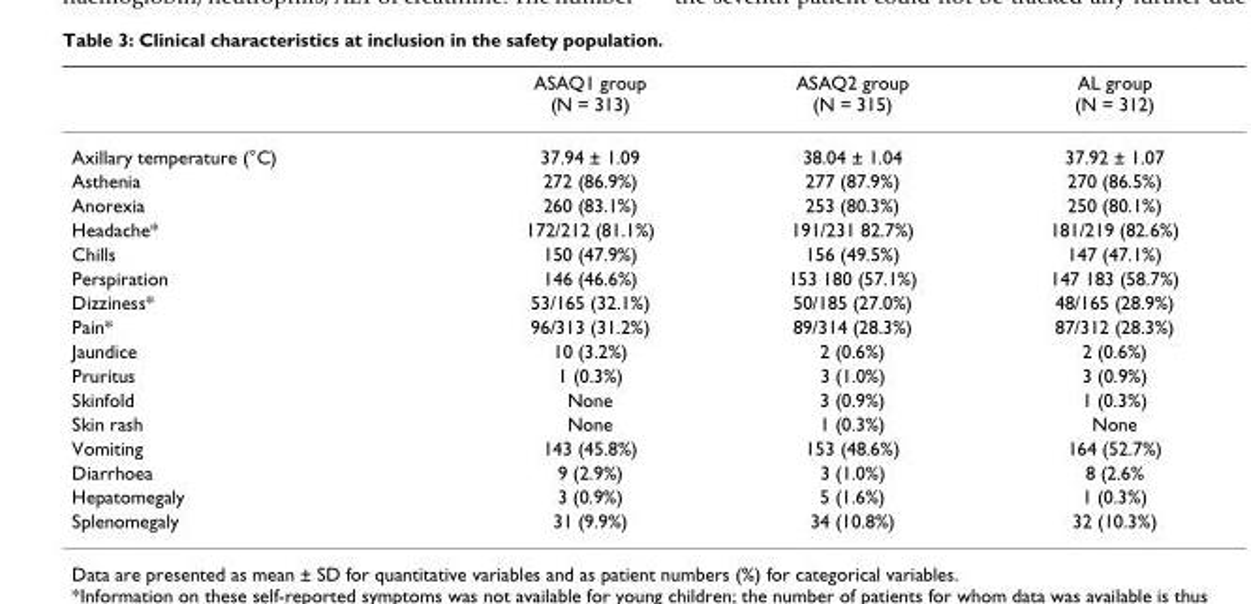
<table><thead><tr><td></td><td>ASAQ1 group (N = 313)</td><td>ASAQ2 group (N = 315)</td><td>AL group (N = 312)</td></tr></thead><tbody><tr><td>Axillary temperature (°C)</td><td>37.94 ± 1.09</td><td>38.04 ± 1.04</td><td>37.92 ± 1.07</td></tr><tr><td>Asthenia</td><td>272 (86.9%)</td><td>277 (87.9%)</td><td>270 (86.5%)</td></tr><tr><td>Anorexia</td><td>260 (83.1%)</td><td>253 (80.3%)</td><td>250 (80.1%)</td></tr><tr><td>Headache*</td><td>172/212 (81.1%)</td><td>191/231 82.7%)</td><td>181/219 (82.6%)</td></tr><tr><td>Chills</td><td>150 (47.9%)</td><td>156 (49.5%)</td><td>147 (47.1%)</td></tr><tr><td>Perspiration</td><td>146 (46.6%)</td><td>153 180 (57.1%)</td><td>147 183 (58.7%)</td></tr><tr><td>Dizziness*</td><td>53/165 (32.1%)</td><td>50/185 (27.0%)</td><td>48/165 (28.9%)</td></tr><tr><td>Pain*</td><td>96/313 (31.2%)</td><td>89/314 (28.3%)</td><td>87/312 (28.3%)</td></tr><tr><td>Jaundice</td><td>10 (3.2%)</td><td>2 (0.6%)</td><td>2 (0.6%)</td></tr><tr><td>Pruritus</td><td>1 (0.3%)</td><td>3 (1.0%)</td><td>3 (0.9%)</td></tr><tr><td>Skinfold</td><td>None</td><td>3 (0.9%)</td><td>1 (0.3%)</td></tr><tr><td>Skin rash</td><td>None</td><td>1 (0.3%)</td><td>None</td></tr><tr><td>Vomiting</td><td>143 (45.8%)</td><td>153 (48.6%)</td><td>164 (52.7%)</td></tr><tr><td>Diarrhoea</td><td>9 (2.9%)</td><td>3 (1.0%)</td><td>8 (2.6%</td></tr><tr><td>Hepatomegaly</td><td>3 (0.9%)</td><td>5 (1.6%)</td><td>1 (0.3%)</td></tr><tr><td>Splenomegaly</td><td>31 (9.9%)</td><td>34 (10.8%)</td><td>32 (10.3%)</td></tr></tbody></table>